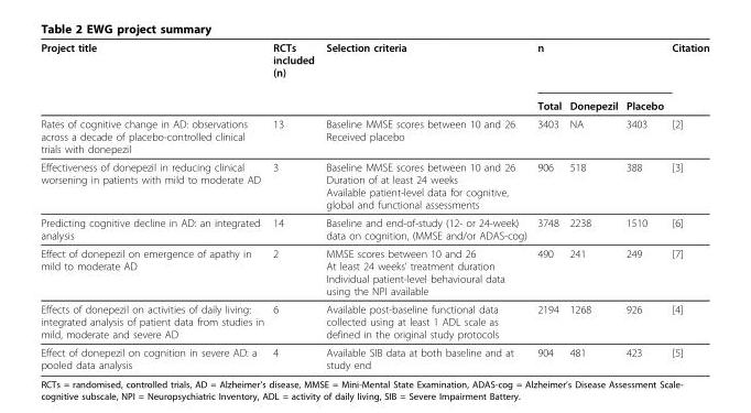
<table><thead><tr><td rowspan="2">Project title</td><td rowspan="2">RCTs included (n)</td><td rowspan="2">Selection criteria</td><td colspan="3">n</td><td rowspan="2">Citation</td></tr><tr><td>Total</td><td>Donepezil</td><td>Placebo</td></tr></thead><tbody><tr><td>Rates of cognitive change in AD: observations across a decade of placebo-controlled clinical trials with donepezil</td><td>13</td><td>Baseline MMSE scores between 10 and 26 Received placebo</td><td>3403</td><td>NA</td><td>3403</td><td>[2]</td></tr><tr><td>Effectiveness of donepezil in reducing clinical worsening in patients with mild to moderate AD</td><td>3</td><td>Baseline MMSE scores between 10 and 26 Duration of at least 24 weeks Available patient-level data for cognitive, global and functional assessments</td><td>906</td><td>518</td><td>388</td><td>[3]</td></tr><tr><td>Predicting cognitive decline in AD: an integrated analysis</td><td>14</td><td>Baseline and end-of-study (12- or 24-week) data on cognition, (MMSE and/or ADAS-cog)</td><td>3748</td><td>2238</td><td>1510</td><td>[6]</td></tr><tr><td>Effect of donepezil on emergence of apathy in mild to moderate AD</td><td>2</td><td>MMSE scores between 10 and 26 At least 24 weeks’ treatment duration Individual patient-level behavioural data using the NPI available</td><td>490</td><td>241</td><td>249</td><td>[7]</td></tr><tr><td>Effects of donepezil on activities of daily living: integrated analysis of patient data from studies in mild, moderate and severe AD</td><td>6</td><td>Available post-baseline functional data collected using at least 1 ADL scale as defined in the original study protocols</td><td>2194</td><td>1268</td><td>926</td><td>[4]</td></tr><tr><td>Effect of donepezil on cognition in severe AD: a pooled data analysis</td><td>4</td><td>Available SIB data at both baseline and at study end</td><td>904</td><td>481</td><td>423</td><td>[5]</td></tr></tbody></table>